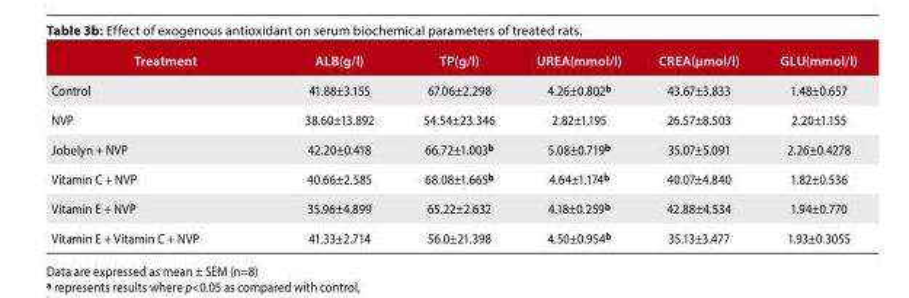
<table><thead><tr><td>Treatment</td><td>ALB(g/l)</td><td>TP(g/l)</td><td>UREA(mmol/l)</td><td>CREA(μmol/l)</td><td>GLU(mmol/l)</td></tr></thead><tbody><tr><td>Control</td><td>41.88±3.155</td><td>67.06±2.298</td><td>4.26±0.802<sup>b</sup></td><td>43.67±3.833</td><td>1.48±0.657</td></tr><tr><td>NVP</td><td>38.60±13.892</td><td>54.54±23.346</td><td>2.82±1.195</td><td>26.57±8.503</td><td>2.20±1.155</td></tr><tr><td>Jobelyn + NVP</td><td>42.20±0.418</td><td>66.72±1.003<sup>b</sup></td><td>5.08±0.719<sup>b</sup></td><td>35.07±5.091</td><td>2.26±0.4278</td></tr><tr><td>Vitamin C + NVP</td><td>40.66±2.585</td><td>68.08±1.665<sup>b</sup></td><td>4.64±1.174<sup>b</sup></td><td>40.07±4.840</td><td>1.82±0.536</td></tr><tr><td>Vitamin E + NVP</td><td>35.96±4.899</td><td>65.22±2.632</td><td>4.18±0.259<sup>b</sup></td><td>42.88±4.534</td><td>1.94±0.770</td></tr><tr><td>Vitamin E + Vitamin C + NVP</td><td>41.33±2.714</td><td>56.0±21.398</td><td>4.50±0.954<sup>b</sup></td><td>35.13±3.477</td><td>1.93±0.3055</td></tr></tbody></table>